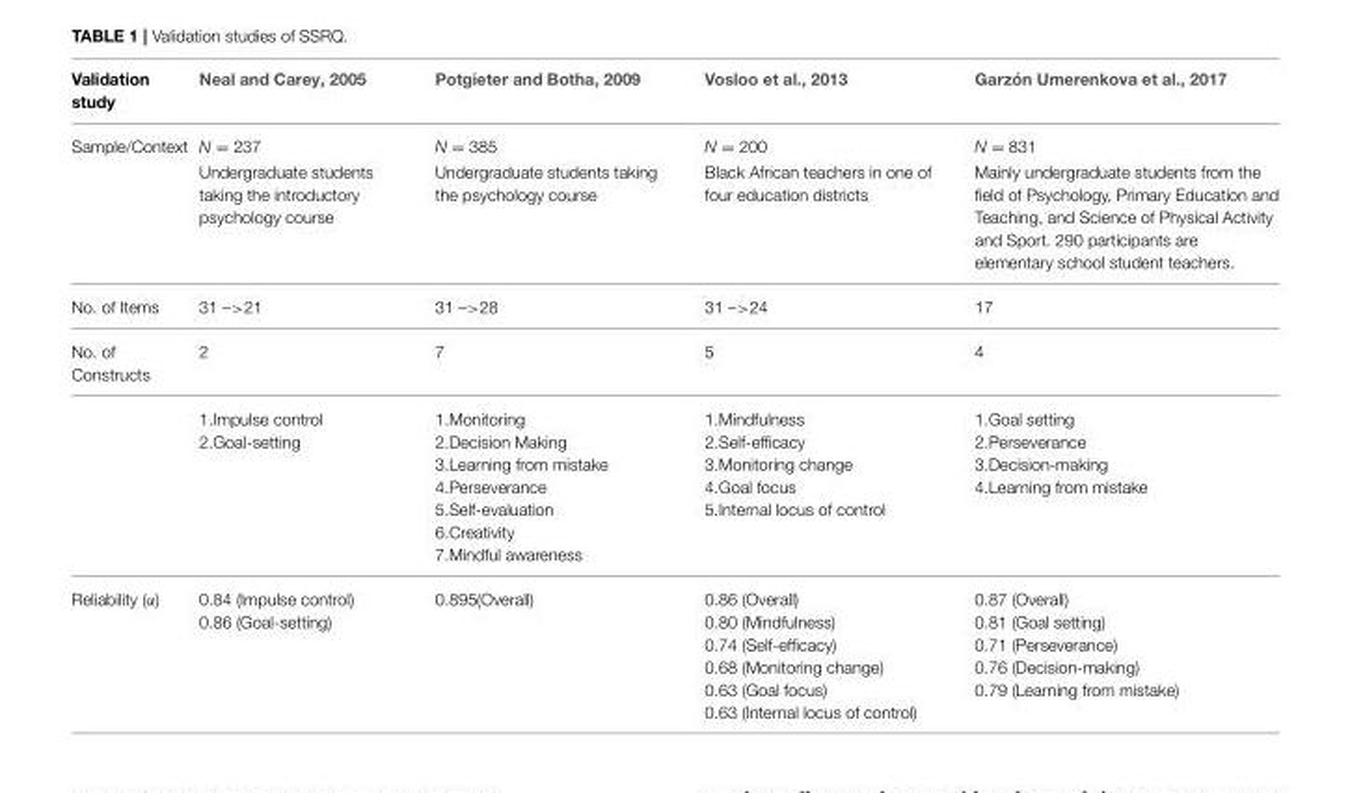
<table><thead><tr><td>Validation study</td><td>Neal and Carey, 2005</td><td>Potgieter and Botha, 2009</td><td>Vosloo et al., 2013</td><td>Garzón Umerenkova et al., 2017</td></tr></thead><tbody><tr><td rowspan="2">Sample/Context</td><td>N = 237</td><td>N = 385</td><td>N = 200</td><td>N = 831</td></tr><tr><td>Undergraduate students taking the introductory psychology course</td><td>Undergraduate students taking the psychology course</td><td>Black African teachers in one of four education districts</td><td>Mainly undergraduate students from the field of Psychology, Primary Education and Teaching, and Science of Physical Activity and Sport. 290 participants are elementary school student teachers.</td></tr><tr><td>No. of Items</td><td>31 –&gt;21</td><td>31 –&gt;28</td><td>31 –&gt;24</td><td>17</td></tr><tr><td rowspan="2">No. of Constructs</td><td>2</td><td>7</td><td>5</td><td>4</td></tr><tr><td>1.Impulse control 2.Goal-setting</td><td>1.Monitoring 2.Decision Making 3.Learning from mistake 4.Perseverance 5.Self-evaluation 6.Creativity 7.Mindful awareness</td><td>1.Mindfulness 2.Self-efficacy 3.Monitoring change 4.Goal focus 5.Internal locus of control</td><td>1.Goal setting 2.Perseverance 3.Decision-making 4.Learning from mistake</td></tr><tr><td>Reliability (α)</td><td>0.84 (Impulse control) 0.86 (Goal-setting)</td><td>0.895(Overall)</td><td>0.86 (Overall) 0.80 (Mindfulness) 0.74 (Self-efficacy) 0.68 (Monitoring change) 0.63 (Goal focus) 0.63 (Internal locus of control)</td><td>0.87 (Overall) 0.81 (Goal setting) 0.71 (Perseverance) 0.76 (Decision-making) 0.79 (Learning from mistake)</td></tr></tbody></table>